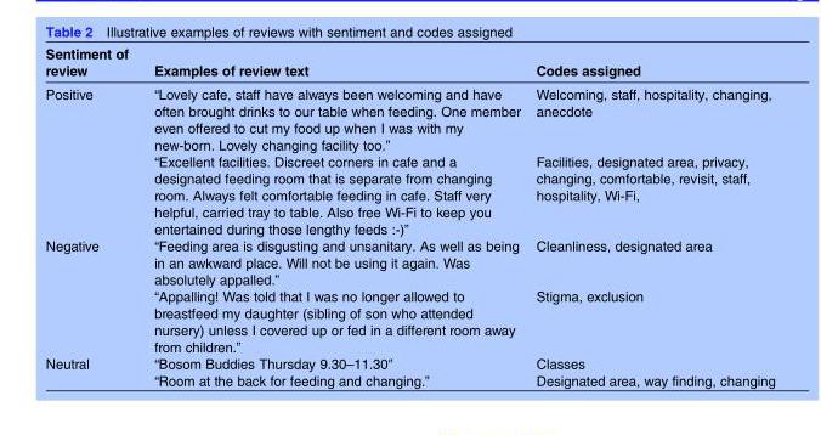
<table><thead><tr><td>Sentiment of review</td><td>Examples of review text</td><td>Codes assigned</td></tr></thead><tbody><tr><td rowspan="2">Positive</td><td>“Lovely cafe, staff have always been welcoming and have often brought drinks to our table when feeding. One member even offered to cut my food up when I was with my new-born. Lovely changing facility too.”</td><td>Welcoming, staff, hospitality, changing, anecdote</td></tr><tr><td>“Excellent facilities. Discreet corners in cafe and a designated feeding room that is separate from changing room. Always felt comfortable feeding in cafe. Staff very helpful, carried tray to table. Also free Wi-Fi to keep you entertained during those lengthy feeds :-)”</td><td>Facilities, designated area, privacy, changing, comfortable, revisit, staff, hospitality, Wi-Fi,</td></tr><tr><td rowspan="2">Negative</td><td>“Feeding area is disgusting and unsanitary. As well as being in an awkward place. Will not be using it again. Was absolutely appalled.”</td><td>Cleanliness, designated area</td></tr><tr><td>“Appalling! Was told that I was no longer allowed to breastfeed my daughter (sibling of son who attended nursery) unless I covered up or fed in a different room away from children.”</td><td>Stigma, exclusion</td></tr><tr><td rowspan="2">Neutral</td><td>“Bosom Buddies Thursday 9.30–11.30″</td><td>Classes</td></tr><tr><td>“Room at the back for feeding and changing.”</td><td>Designated area, way finding, changing</td></tr></tbody></table>